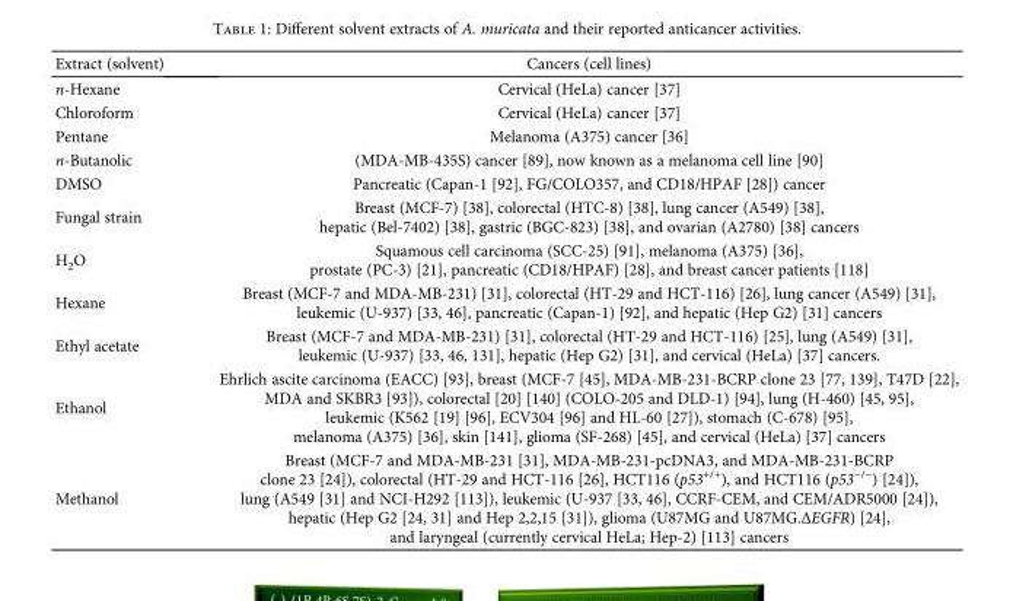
<table><thead><tr><td>Extract (solvent)</td><td>Cancers (cell lines)</td></tr></thead><tbody><tr><td>n-Hexane</td><td>Cervical (HeLa) cancer [37]</td></tr><tr><td>Chloroform</td><td>Cervical (HeLa) cancer [37]</td></tr><tr><td>Pentane</td><td>Melanoma (A375) cancer [36]</td></tr><tr><td>n-Butanolic</td><td>(MDA-MB-435S) cancer [89], now known as a melanoma cell line [90]</td></tr><tr><td>DMSO</td><td>Pancreatic (Capan-1 [92], FG/COLO357, and CD18/HPAF [28]) cancer</td></tr><tr><td>Fungal strain</td><td>Breast (MCF-7) [38], colorectal (HTC-8) [38], lung cancer (A549) [38], hepatic (Bel-7402) [38], gastric (BGC-823) [38], and ovarian (A2780) [38] cancers</td></tr><tr><td>H<sub>2</sub>O</td><td>Squamous cell carcinoma (SCC-25) [91], melanoma (A375) [36], prostate (PC-3) [21], pancreatic (CD18/HPAF) [28], and breast cancer patients [118]</td></tr><tr><td>Hexane</td><td>Breast (MCF-7 and MDA-MB-231) [31], colorectal (HT-29 and HCT-116) [26], lung cancer (A549) [31], leukemic (U-937) [33, 46], pancreatic (Capan-1) [92], and hepatic (Hep G2) [31] cancers</td></tr><tr><td>Ethyl acetate</td><td>Breast (MCF-7 and MDA-MB-231) [31], colorectal (HT-29 and HCT-116) [25], lung (A549) [31], leukemic (U-937) [33, 46, 131], hepatic (Hep G2) [31], and cervical (HeLa) [37] cancers.</td></tr><tr><td>Ethanol</td><td>Ehrlich ascite carcinoma (EACC) [93], breast (MCF-7 [45], MDA-MB-231-BCRP clone 23 [77, 139], T47D [22], MDA and SKBR3 [93]), colorectal [20] [140] (COLO-205 and DLD-1) [94], lung (H-460) [45, 95], leukemic (K562 [19] [96], ECV304 [96] and HL-60 [27]), stomach (C-678) [95], melanoma (A375) [36], skin [141], glioma (SF-268) [45], and cervical (HeLa) [37] cancers</td></tr><tr><td>Methanol</td><td>Breast (MCF-7 and MDA-MB-231 [31], MDA-MB-231-pcDNA3, and MDA-MB-231-BCRP clone 23 [24]), colorectal (HT-29 and HCT-116 [26], HCT116 (p53<sup>+/+</sup>), and HCT116 (p53<sup>−/−</sup>) [24]), lung (A549 [31] and NCI-H292 [113]), leukemic (U-937 [33, 46], CCRF-CEM, and CEM/ADR5000 [24]), hepatic (Hep G2 [24, 31] and Hep 2,2,15 [31]), glioma (U87MG and U87MG.ΔEGFR) [24], and laryngeal (currently cervical HeLa; Hep-2) [113] cancers</td></tr></tbody></table>